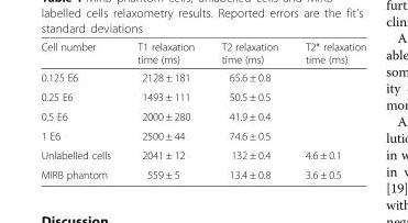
<table><thead><tr><td>Cell number</td><td>T1 relaxation time (ms)</td><td>T2 relaxation time (ms)</td><td>T2* relaxation time (ms)</td></tr></thead><tbody><tr><td>0.125 E6</td><td>2128 ± 181</td><td>65.6 ± 0.8</td><td></td></tr><tr><td>0.25 E6</td><td>1493 ± 111</td><td>50.5 ± 0.5</td><td></td></tr><tr><td>0.5 E6</td><td>2000 ± 280</td><td>41.9 ± 0.4</td><td></td></tr><tr><td>1 E6</td><td>2500 ± 44</td><td>74.6 ± 0.5</td><td></td></tr><tr><td>Unlabelled cells</td><td>2041 ± 12</td><td>132 ± 0.4</td><td>4.6 ± 0.1</td></tr><tr><td>MIRB phantom</td><td>559 ± 5</td><td>13.4 ± 0.8</td><td>3.6 ± 0.5</td></tr></tbody></table>